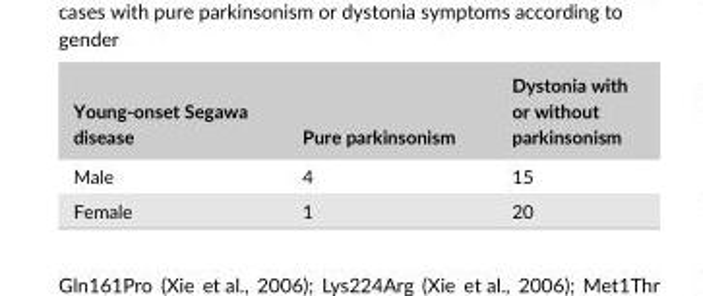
<table><thead><tr><td>Young- onset Segawa disease</td><td>Pure parkinsonism</td><td>Dystonia with or without parkinsonism</td></tr></thead><tbody><tr><td>Male</td><td>4</td><td>15</td></tr><tr><td>Female</td><td>1</td><td>20</td></tr></tbody></table>